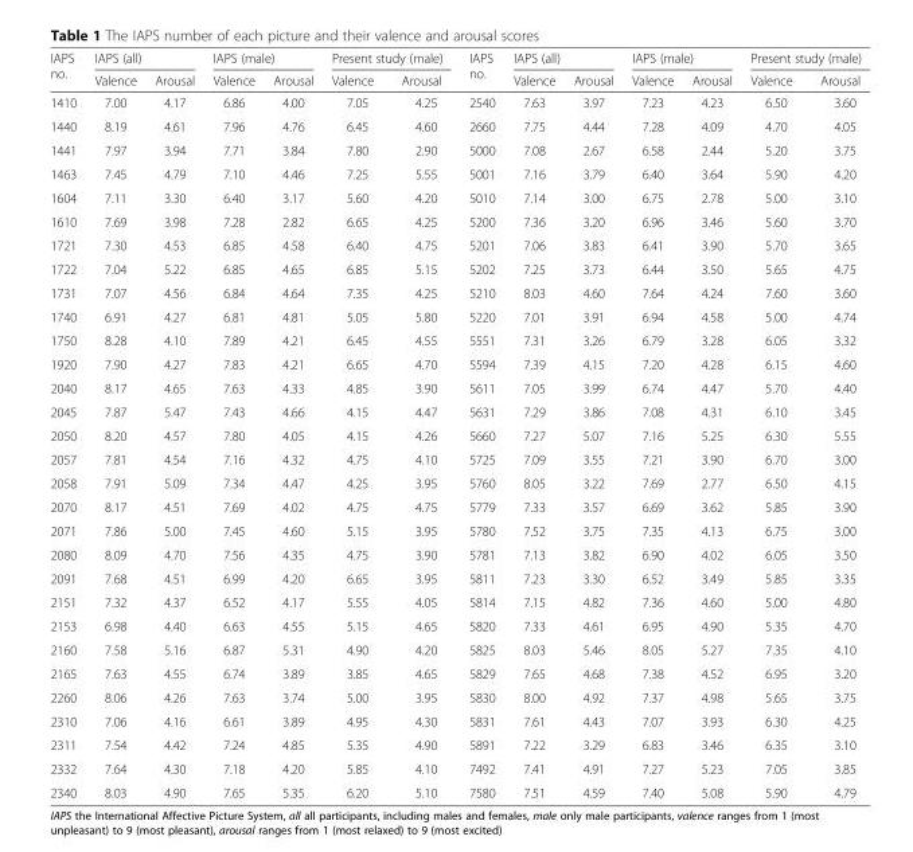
<table><thead><tr><td rowspan="2">IAPS no.</td><td colspan="2">IAPS (all)</td><td colspan="2">IAPS (male)</td><td colspan="2">Present study (male)</td><td rowspan="2">IAPS no.</td><td colspan="2">IAPS (all)</td><td colspan="2">IAPS (male)</td><td colspan="2">Present study (male)</td></tr><tr><td>Valence</td><td>Arousal</td><td>Valence</td><td>Arousal</td><td>Valence</td><td>Arousal</td><td>Valence</td><td>Arousal</td><td>Valence</td><td>Arousal</td><td>Valence</td><td>Arousal</td></tr></thead><tbody><tr><td>1410</td><td>7.00</td><td>4.17</td><td>6.86</td><td>4.00</td><td>7.05</td><td>4.25</td><td>2540</td><td>7.63</td><td>3.97</td><td>7.23</td><td>4.23</td><td>6.50</td><td>3.60</td></tr><tr><td>1440</td><td>8.19</td><td>4.61</td><td>7.96</td><td>4.76</td><td>6.45</td><td>4.60</td><td>2660</td><td>7.75</td><td>4.44</td><td>7.28</td><td>4.09</td><td>4.70</td><td>4.05</td></tr><tr><td>1441</td><td>7.97</td><td>3.94</td><td>7.71</td><td>3.84</td><td>7.80</td><td>2.90</td><td>5000</td><td>7.08</td><td>2.67</td><td>6.58</td><td>2.44</td><td>5.20</td><td>3.75</td></tr><tr><td>1463</td><td>7.45</td><td>4.79</td><td>7.10</td><td>4.46</td><td>7.25</td><td>5.55</td><td>5001</td><td>7.16</td><td>3.79</td><td>6.40</td><td>3.64</td><td>5.90</td><td>4.20</td></tr><tr><td>1604</td><td>7.11</td><td>3.30</td><td>6.40</td><td>3.17</td><td>5.60</td><td>4.20</td><td>5010</td><td>7.14</td><td>3.00</td><td>6.75</td><td>2.78</td><td>5.00</td><td>3.10</td></tr><tr><td>1610</td><td>7.69</td><td>3.98</td><td>7.28</td><td>2.82</td><td>6.65</td><td>4.25</td><td>5200</td><td>7.36</td><td>3.20</td><td>6.96</td><td>3.46</td><td>5.60</td><td>3.70</td></tr><tr><td>1721</td><td>7.30</td><td>4.53</td><td>6.85</td><td>4.58</td><td>6.40</td><td>4.75</td><td>5201</td><td>7.06</td><td>3.83</td><td>6.41</td><td>3.90</td><td>5.70</td><td>3.65</td></tr><tr><td>1722</td><td>7.04</td><td>5.22</td><td>6.85</td><td>4.65</td><td>6.85</td><td>5.15</td><td>5202</td><td>7.25</td><td>3.73</td><td>6.44</td><td>3.50</td><td>5.65</td><td>4.75</td></tr><tr><td>1731</td><td>7.07</td><td>4.56</td><td>6.84</td><td>4.64</td><td>7.35</td><td>4.25</td><td>5210</td><td>8.03</td><td>4.60</td><td>7.64</td><td>4.24</td><td>7.60</td><td>3.60</td></tr><tr><td>1740</td><td>6.91</td><td>4.27</td><td>6.81</td><td>4.81</td><td>5.05</td><td>5.80</td><td>5220</td><td>7.01</td><td>3.91</td><td>6.94</td><td>4.58</td><td>5.00</td><td>4.74</td></tr><tr><td>1750</td><td>8.28</td><td>4.10</td><td>7.89</td><td>4.21</td><td>6.45</td><td>4.55</td><td>5551</td><td>7.31</td><td>3.26</td><td>6.79</td><td>3.28</td><td>6.05</td><td>3.32</td></tr><tr><td>1920</td><td>7.90</td><td>4.27</td><td>7.83</td><td>4.21</td><td>6.65</td><td>4.70</td><td>5594</td><td>7.39</td><td>4.15</td><td>7.20</td><td>4.28</td><td>6.15</td><td>4.60</td></tr><tr><td>2040</td><td>8.17</td><td>4.65</td><td>7.63</td><td>4.33</td><td>4.85</td><td>3.90</td><td>5611</td><td>7.05</td><td>3.99</td><td>6.74</td><td>4.47</td><td>5.70</td><td>4.40</td></tr><tr><td>2045</td><td>7.87</td><td>5.47</td><td>7.43</td><td>4.66</td><td>4.15</td><td>4.47</td><td>5631</td><td>7.29</td><td>3.86</td><td>7.08</td><td>4.31</td><td>6.10</td><td>3.45</td></tr><tr><td>2050</td><td>8.20</td><td>4.57</td><td>7.80</td><td>4.05</td><td>4.15</td><td>4.26</td><td>5660</td><td>7.27</td><td>5.07</td><td>7.16</td><td>5.25</td><td>6.30</td><td>5.55</td></tr><tr><td>2057</td><td>7.81</td><td>4.54</td><td>7.16</td><td>4.32</td><td>4.75</td><td>4.10</td><td>5725</td><td>7.09</td><td>3.55</td><td>7.21</td><td>3.90</td><td>6.70</td><td>3.00</td></tr><tr><td>2058</td><td>7.91</td><td>5.09</td><td>7.34</td><td>4.47</td><td>4.25</td><td>3.95</td><td>5760</td><td>8.05</td><td>3.22</td><td>7.69</td><td>2.77</td><td>6.50</td><td>4.15</td></tr><tr><td>2070</td><td>8.17</td><td>4.51</td><td>7.69</td><td>4.02</td><td>4.75</td><td>4.75</td><td>5779</td><td>7.33</td><td>3.57</td><td>6.69</td><td>3.62</td><td>5.85</td><td>3.90</td></tr><tr><td>2071</td><td>7.86</td><td>5.00</td><td>7.45</td><td>4.60</td><td>5.15</td><td>3.95</td><td>5780</td><td>7.52</td><td>3.75</td><td>7.35</td><td>4.13</td><td>6.75</td><td>3.00</td></tr><tr><td>2080</td><td>8.09</td><td>4.70</td><td>7.56</td><td>4.35</td><td>4.75</td><td>3.90</td><td>5781</td><td>7.13</td><td>3.82</td><td>6.90</td><td>4.02</td><td>6.05</td><td>3.50</td></tr><tr><td>2091</td><td>7.68</td><td>4.51</td><td>6.99</td><td>4.20</td><td>6.65</td><td>3.95</td><td>5811</td><td>7.23</td><td>3.30</td><td>6.52</td><td>3.49</td><td>5.85</td><td>3.35</td></tr><tr><td>2151</td><td>7.32</td><td>4.37</td><td>6.52</td><td>4.17</td><td>5.55</td><td>4.05</td><td>5814</td><td>7.15</td><td>4.82</td><td>7.36</td><td>4.60</td><td>5.00</td><td>4.80</td></tr><tr><td>2153</td><td>6.98</td><td>4.40</td><td>6.63</td><td>4.55</td><td>5.15</td><td>4.65</td><td>5820</td><td>7.33</td><td>4.61</td><td>6.95</td><td>4.90</td><td>5.35</td><td>4.70</td></tr><tr><td>2160</td><td>7.58</td><td>5.16</td><td>6.87</td><td>5.31</td><td>4.90</td><td>4.20</td><td>5825</td><td>8.03</td><td>5.46</td><td>8.05</td><td>5.27</td><td>7.35</td><td>4.10</td></tr><tr><td>2165</td><td>7.63</td><td>4.55</td><td>6.74</td><td>3.89</td><td>3.85</td><td>4.65</td><td>5829</td><td>7.65</td><td>4.68</td><td>7.38</td><td>4.52</td><td>6.95</td><td>3.20</td></tr><tr><td>2260</td><td>8.06</td><td>4.26</td><td>7.63</td><td>3.74</td><td>5.00</td><td>3.95</td><td>5830</td><td>8.00</td><td>4.92</td><td>7.37</td><td>4.98</td><td>5.65</td><td>3.75</td></tr><tr><td>2310</td><td>7.06</td><td>4.16</td><td>6.61</td><td>3.89</td><td>4.95</td><td>4.30</td><td>5831</td><td>7.61</td><td>4.43</td><td>7.07</td><td>3.93</td><td>6.30</td><td>4.25</td></tr><tr><td>2311</td><td>7.54</td><td>4.42</td><td>7.24</td><td>4.85</td><td>5.35</td><td>4.90</td><td>5891</td><td>7.22</td><td>3.29</td><td>6.83</td><td>3.46</td><td>6.35</td><td>3.10</td></tr><tr><td>2332</td><td>7.64</td><td>4.30</td><td>7.18</td><td>4.20</td><td>5.85</td><td>4.10</td><td>7492</td><td>7.41</td><td>4.91</td><td>7.27</td><td>5.23</td><td>7.05</td><td>3.85</td></tr><tr><td>2340</td><td>8.03</td><td>4.90</td><td>7.65</td><td>5.35</td><td>6.20</td><td>5.10</td><td>7580</td><td>7.51</td><td>4.59</td><td>7.40</td><td>5.08</td><td>5.90</td><td>4.79</td></tr></tbody></table>